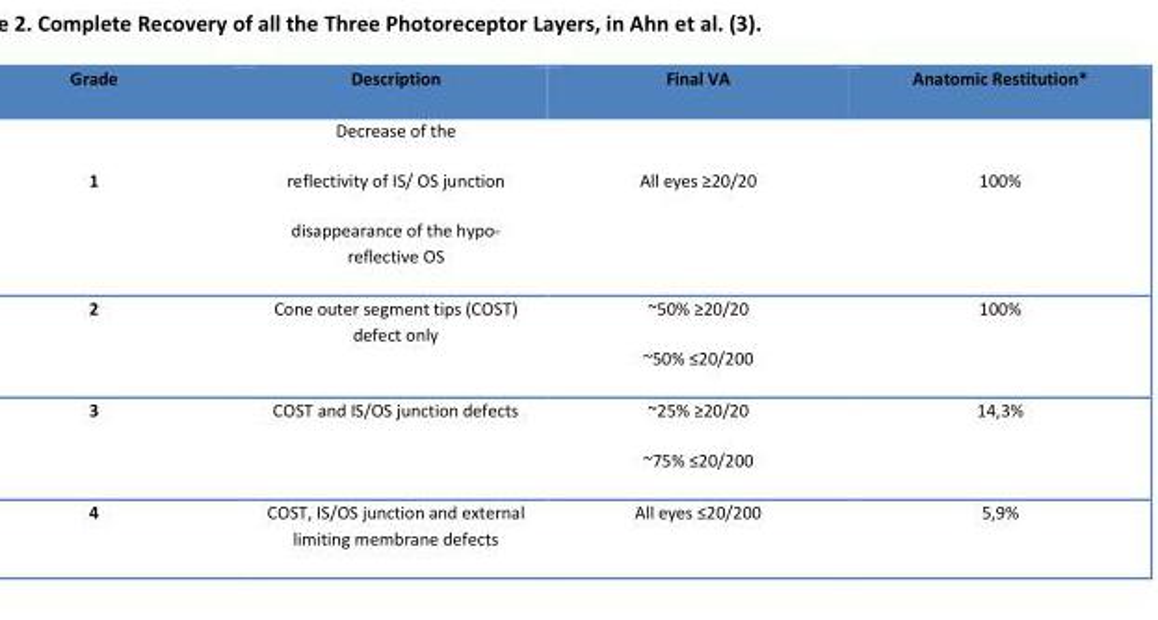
<table><thead><tr><td>Grade</td><td>Description</td><td>Final VA</td><td>Anatomic Restitution*</td></tr></thead><tbody><tr><td>1</td><td>Decrease of the reflectivity of IS/ OS junction disappearance of the hypo- reflective OS</td><td>All eyes ≥20/20</td><td>100%</td></tr><tr><td>2</td><td>Cone outer segment tips (COST) defect only</td><td>~50% ≥20/20 ~50% ≤20/200</td><td>100%</td></tr><tr><td>3</td><td>COST and IS/OS junction defects</td><td>~25% ≥20/20 ~75% ≤20/200</td><td>14,3%</td></tr><tr><td>4</td><td>COST, IS/OS junction and external limiting membrane defects</td><td>All eyes ≤20/200</td><td>5,9%</td></tr></tbody></table>